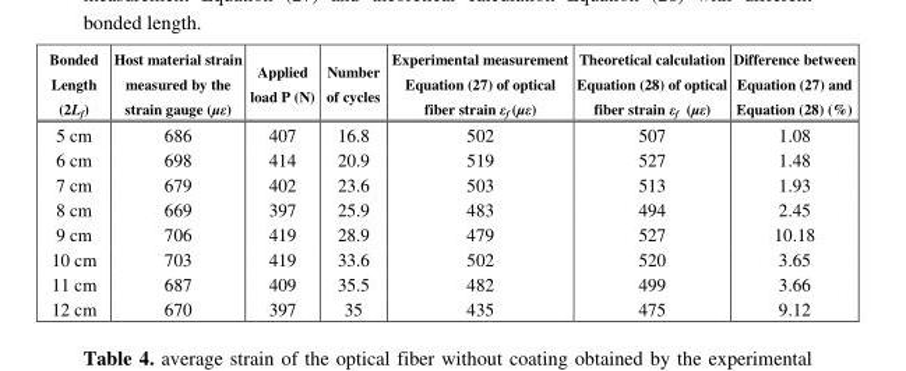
<table><thead><tr><td>Bonded Length (2Lf)</td><td>Host material strain measured by the strain gauge (με)</td><td>Applied load P (N)</td><td>Number of cycles</td><td>Experimental measurement Equation (27) of optical fiber strain εf (με)</td><td>Theoretical calculation Equation (28) of optical fiber strain εf (με)</td><td>Difference between Equation (27) and Equation (28) (%)</td></tr></thead><tbody><tr><td>5 cm</td><td>686</td><td>407</td><td>16.8</td><td>502</td><td>507</td><td>1.08</td></tr><tr><td>6 cm</td><td>698</td><td>414</td><td>20.9</td><td>519</td><td>527</td><td>1.48</td></tr><tr><td>7 cm</td><td>679</td><td>402</td><td>23.6</td><td>503</td><td>513</td><td>1.93</td></tr><tr><td>8 cm</td><td>669</td><td>397</td><td>25.9</td><td>483</td><td>494</td><td>2.45</td></tr><tr><td>9 cm</td><td>706</td><td>419</td><td>28.9</td><td>479</td><td>527</td><td>10.18</td></tr><tr><td>10 cm</td><td>703</td><td>419</td><td>33.6</td><td>502</td><td>520</td><td>3.65</td></tr><tr><td>11 cm</td><td>687</td><td>409</td><td>35.5</td><td>482</td><td>499</td><td>3.66</td></tr><tr><td>12 cm</td><td>670</td><td>397</td><td>35</td><td>435</td><td>475</td><td>9.12</td></tr></tbody></table>